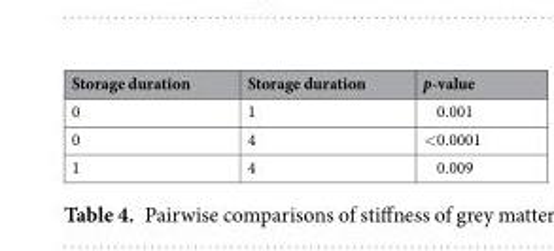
<table><thead><tr><td>Storage duration</td><td>Storage duration</td><td>p-value</td></tr></thead><tbody><tr><td>0</td><td>1</td><td>0.001</td></tr><tr><td>0</td><td>4</td><td>&lt;0.0001</td></tr><tr><td>1</td><td>4</td><td>0.009</td></tr></tbody></table>